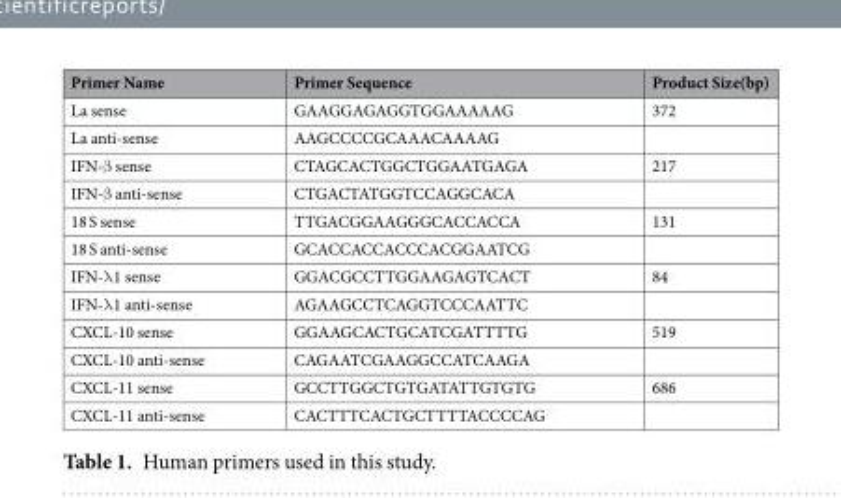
<table><thead><tr><td>Primer Name</td><td>Primer Sequence</td><td>Product Size(bp)</td></tr></thead><tbody><tr><td>La sense</td><td>GAAGGAGAGGTGGAAAAAG</td><td>372</td></tr><tr><td>La anti-sense</td><td>AAGCCCCGCAAACAAAAG</td><td></td></tr><tr><td>IFN-β sense</td><td>CTAGCACTGGCTGGAATGAGA</td><td>217</td></tr><tr><td>IFN-β anti-sense</td><td>CTGACTATGGTCCAGGCACA</td><td></td></tr><tr><td>18 S sense</td><td>TTGACGGAAGGGCACCACCA</td><td>131</td></tr><tr><td>18 S anti-sense</td><td>GCACCACCACCCACGGAATCG</td><td></td></tr><tr><td>IFN-λ1 sense</td><td>GGACGCCTTGGAAGAGTCACT</td><td>84</td></tr><tr><td>IFN-λ1 anti-sense</td><td>AGAAGCCTCAGGTCCCAATTC</td><td></td></tr><tr><td>CXCL-10 sense</td><td>GGAAGCACTGCATCGATTTTG</td><td>519</td></tr><tr><td>CXCL-10 anti-sense</td><td>CAGAATCGAAGGCCATCAAGA</td><td></td></tr><tr><td>CXCL-11 sense</td><td>GCCTTGGCTGTGATATTGTGTG</td><td>686</td></tr><tr><td>CXCL-11 anti-sense</td><td>CACTTTCACTGCTTTTACCCCAG</td><td></td></tr></tbody></table>